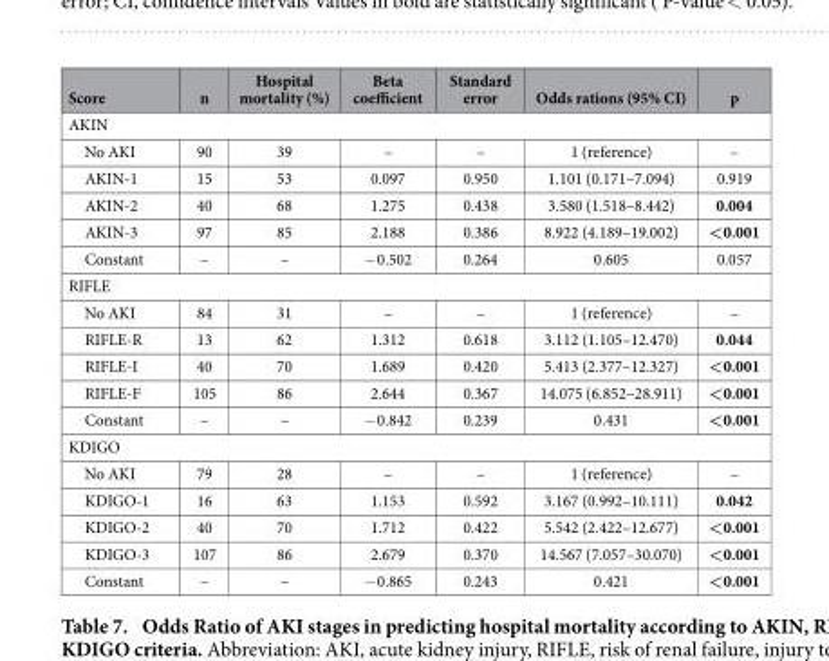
<table><thead><tr><td>Score</td><td>n</td><td>Hospital mortality (%)</td><td>Beta coefficient</td><td>Standard error</td><td>Odds rations (95% CI)</td><td>p</td></tr></thead><tbody><tr><td colspan="7">AKIN</td></tr><tr><td>No AKI</td><td>90</td><td>39</td><td>–</td><td>–</td><td>1 (reference)</td><td>–</td></tr><tr><td>AKIN-1</td><td>15</td><td>53</td><td>0.097</td><td>0.950</td><td>1.101 (0.171–7.094)</td><td>0.919</td></tr><tr><td>AKIN-2</td><td>40</td><td>68</td><td>1.275</td><td>0.438</td><td>3.580 (1.518–8.442)</td><td>0.004</td></tr><tr><td>AKIN-3</td><td>97</td><td>85</td><td>2.188</td><td>0.386</td><td>8.922 (4.189–19.002)</td><td>&lt;0.001</td></tr><tr><td>Constant</td><td>–</td><td>–</td><td>− 0.502</td><td>0.264</td><td>0.605</td><td>0.057</td></tr><tr><td colspan="7">RIFLE</td></tr><tr><td>No AKI</td><td>84</td><td>31</td><td>–</td><td>–</td><td>1 (reference)</td><td>–</td></tr><tr><td>RIFLE-R</td><td>13</td><td>62</td><td>1.312</td><td>0.618</td><td>3.112 (1.105–12.470)</td><td>0.044</td></tr><tr><td>RIFLE-I</td><td>40</td><td>70</td><td>1.689</td><td>0.420</td><td>5.413 (2.377–12.327)</td><td>&lt;0.001</td></tr><tr><td>RIFLE-F</td><td>105</td><td>86</td><td>2.644</td><td>0.367</td><td>14.075 (6.852–28.911)</td><td>&lt;0.001</td></tr><tr><td>Constant</td><td>–</td><td>–</td><td>− 0.842</td><td>0.239</td><td>0.431</td><td>&lt;0.001</td></tr><tr><td colspan="7">KDIGO</td></tr><tr><td>No AKI</td><td>79</td><td>28</td><td>–</td><td>–</td><td>1 (reference)</td><td>–</td></tr><tr><td>KDIGO-1</td><td>16</td><td>63</td><td>1.153</td><td>0.592</td><td>3.167 (0.992–10.111)</td><td>0.042</td></tr><tr><td>KDIGO-2</td><td>40</td><td>70</td><td>1.712</td><td>0.422</td><td>5.542 (2.422–12.677)</td><td>&lt;0.001</td></tr><tr><td>KDIGO-3</td><td>107</td><td>86</td><td>2.679</td><td>0.370</td><td>14.567 (7.057–30.070)</td><td>&lt;0.001</td></tr><tr><td>Constant</td><td>–</td><td>–</td><td>− 0.865</td><td>0.243</td><td>0.421</td><td>&lt;0.001</td></tr></tbody></table>